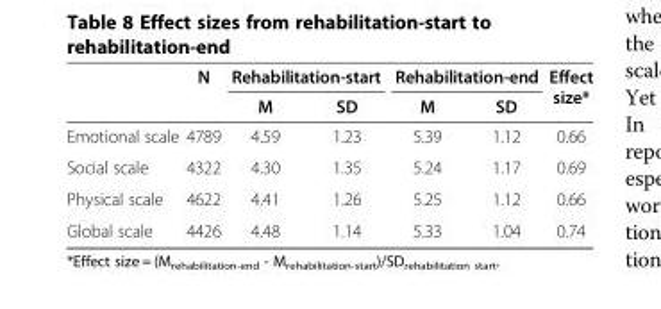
<table><thead><tr><td rowspan="2"></td><td rowspan="2">N</td><td colspan="2">Rehabilitation-start</td><td colspan="2">Rehabilitation-end</td><td rowspan="2">Effect size*</td></tr><tr><td>M</td><td>SD</td><td>M</td><td>SD</td></tr></thead><tbody><tr><td>Emotional scale</td><td>4789</td><td>4.59</td><td>1.23</td><td>5.39</td><td>1.12</td><td>0.66</td></tr><tr><td>Social scale</td><td>4322</td><td>4.30</td><td>1.35</td><td>5.24</td><td>1.17</td><td>0.69</td></tr><tr><td>Physical scale</td><td>4622</td><td>4.41</td><td>1.26</td><td>5.25</td><td>1.12</td><td>0.66</td></tr><tr><td>Global scale</td><td>4426</td><td>4.48</td><td>1.14</td><td>5.33</td><td>1.04</td><td>0.74</td></tr></tbody></table>